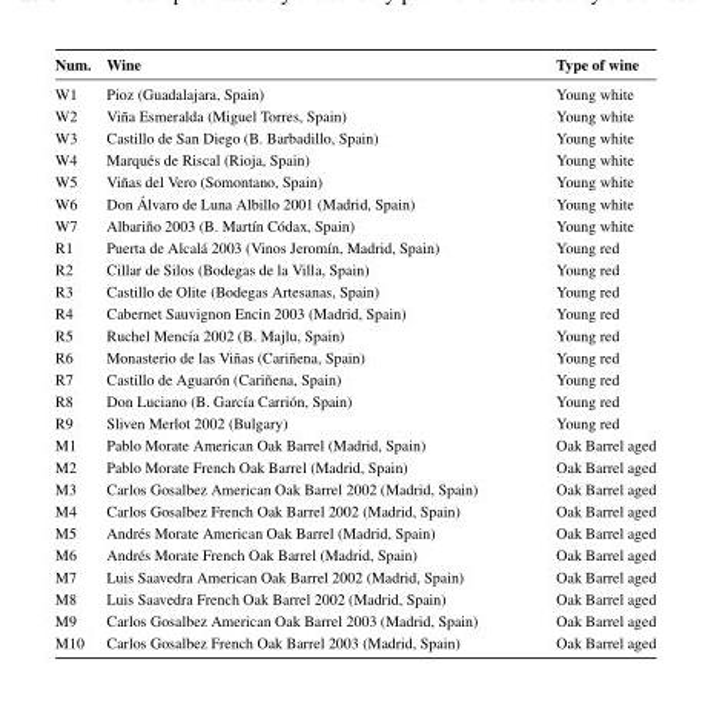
<table><thead><tr><td>Num.</td><td>Wine</td><td>Type of wine</td></tr></thead><tbody><tr><td>W1</td><td>Pioz (Guadalajara, Spain)</td><td>Young white</td></tr><tr><td>W2</td><td>Vi˜na Esmeralda (Miguel Torres, Spain)</td><td>Young white</td></tr><tr><td>W3</td><td>Castillo de San Diego (B. Barbadillo, Spain)</td><td>Young white</td></tr><tr><td>W4</td><td>Marqu´es de Riscal (Rioja, Spain)</td><td>Young white</td></tr><tr><td>W5</td><td>Vi˜nas del Vero (Somontano, Spain)</td><td>Young white</td></tr><tr><td>W6</td><td>Don ´Alvaro de Luna Albillo 2001 (Madrid, Spain)</td><td>Young white</td></tr><tr><td>W7</td><td>Albari˜no 2003 (B. Mart´ın C´odax, Spain)</td><td>Young white</td></tr><tr><td>R1</td><td>Puerta de Alcal´a 2003 (Vinos Jerom´ın, Madrid, Spain)</td><td>Young red</td></tr><tr><td>R2</td><td>Cillar de Silos (Bodegas de la Villa, Spain)</td><td>Young red</td></tr><tr><td>R3</td><td>Castillo de Olite (Bodegas Artesanas, Spain)</td><td>Young red</td></tr><tr><td>R4</td><td>Cabernet Sauvignon Encin 2003 (Madrid, Spain)</td><td>Young red</td></tr><tr><td>R5</td><td>Ruchel Menc´ıa 2002 (B. Majlu, Spain)</td><td>Young red</td></tr><tr><td>R6</td><td>Monasterio de las Vi˜nas (Cari˜nena, Spain)</td><td>Young red</td></tr><tr><td>R7</td><td>Castillo de Aguar´on (Cari˜nena, Spain)</td><td>Young red</td></tr><tr><td>R8</td><td>Don Luciano (B. Garc´ıa Carri´on, Spain)</td><td>Young red</td></tr><tr><td>R9</td><td>Sliven Merlot 2002 (Bulgary)</td><td>Young red</td></tr><tr><td>M1</td><td>Pablo Morate American Oak Barrel (Madrid, Spain)</td><td>Oak Barrel aged</td></tr><tr><td>M2</td><td>Pablo Morate French Oak Barrel (Madrid, Spain)</td><td>Oak Barrel aged</td></tr><tr><td>M3</td><td>Carlos Gosalbez American Oak Barrel 2002 (Madrid, Spain)</td><td>Oak Barrel aged</td></tr><tr><td>M4</td><td>Carlos Gosalbez French Oak Barrel 2002 (Madrid, Spain)</td><td>Oak Barrel aged</td></tr><tr><td>M5</td><td>Andr´es Morate American Oak Barrel (Madrid, Spain)</td><td>Oak Barrel aged</td></tr><tr><td>M6</td><td>Andr´es Morate French Oak Barrel (Madrid, Spain)</td><td>Oak Barrel aged</td></tr><tr><td>M7</td><td>Luis Saavedra American Oak Barrel 2002 (Madrid, Spain)</td><td>Oak Barrel aged</td></tr><tr><td>M8</td><td>Luis Saavedra French Oak Barrel 2002 (Madrid, Spain)</td><td>Oak Barrel aged</td></tr><tr><td>M9</td><td>Carlos Gosalbez American Oak Barrel 2003 (Madrid, Spain)</td><td>Oak Barrel aged</td></tr><tr><td>M10</td><td>Carlos Gosalbez French Oak Barrel 2003 (Madrid, Spain)</td><td>Oak Barrel aged</td></tr></tbody></table>